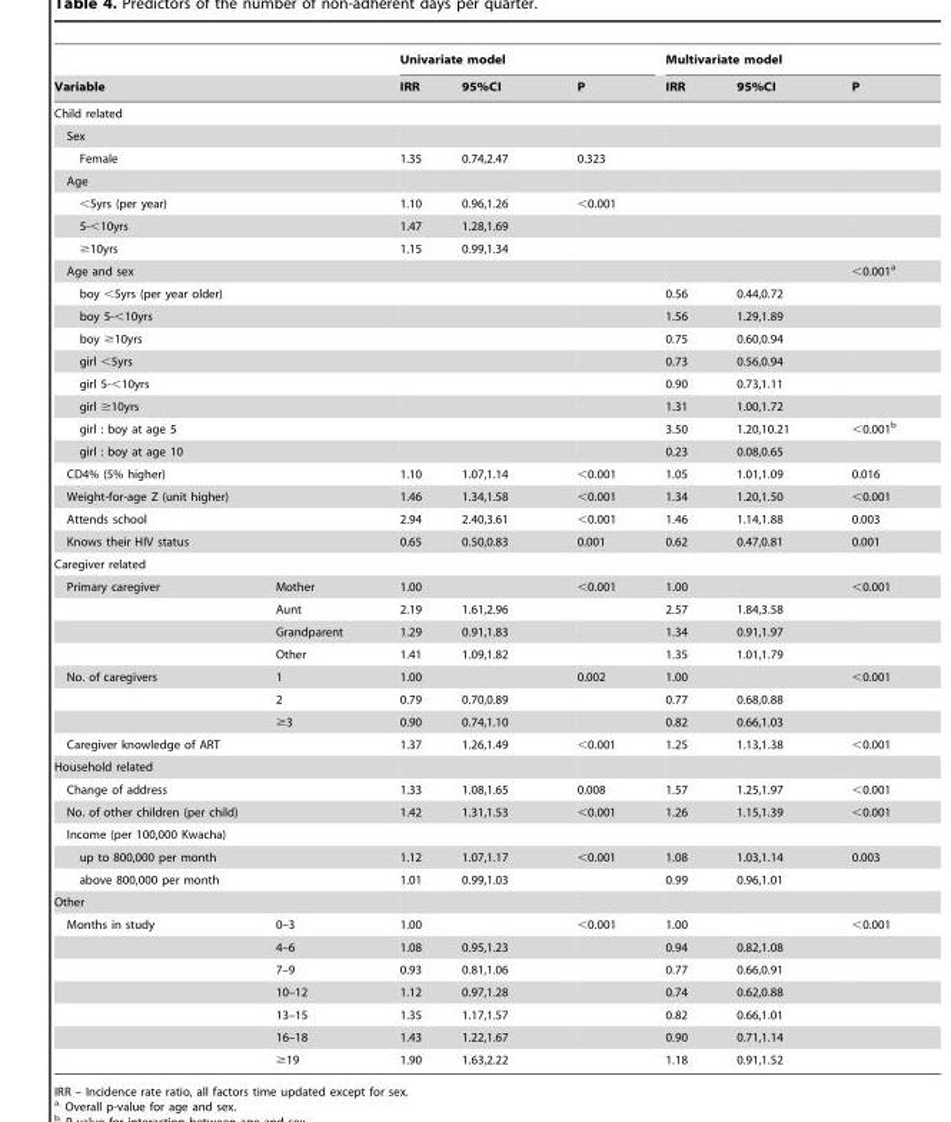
<table><thead><tr><td></td><td></td><td colspan="3">Univariate model</td><td colspan="3">Multivariate model</td></tr><tr><td colspan="2">Variable</td><td>IRR</td><td>95%CI</td><td>P</td><td>IRR</td><td>95%CI</td><td>P</td></tr></thead><tbody><tr><td colspan="8">Child related</td></tr><tr><td colspan="8">Sex</td></tr><tr><td colspan="2">Female</td><td>1.35</td><td>0.74,2.47</td><td>0.323</td><td></td><td></td><td></td></tr><tr><td colspan="8">Age</td></tr><tr><td colspan="2">&lt;5yrs (per year)</td><td>1.10</td><td>0.96,1.26</td><td>&lt;0.001</td><td></td><td></td><td></td></tr><tr><td colspan="2">5-&lt;10yrs</td><td>1.47</td><td>1.28,1.69</td><td></td><td></td><td></td><td></td></tr><tr><td colspan="2">≥10yrs</td><td>1.15</td><td>0.99,1.34</td><td></td><td></td><td></td><td></td></tr><tr><td colspan="2">Age and sex</td><td></td><td></td><td></td><td></td><td></td><td>&lt;0.001<sup>a</sup></td></tr><tr><td colspan="2">boy &lt;5yrs (per year older)</td><td></td><td></td><td></td><td>0.56</td><td>0.44,0.72</td><td></td></tr><tr><td colspan="2">boy 5-&lt;10yrs</td><td></td><td></td><td></td><td>1.56</td><td>1.29,1.89</td><td></td></tr><tr><td colspan="2">boy ≥10yrs</td><td></td><td></td><td></td><td>0.75</td><td>0.60,0.94</td><td></td></tr><tr><td colspan="2">girl &lt;5yrs</td><td></td><td></td><td></td><td>0.73</td><td>0.56,0.94</td><td></td></tr><tr><td colspan="2">girl 5-&lt;10yrs</td><td></td><td></td><td></td><td>0.90</td><td>0.73,1.11</td><td></td></tr><tr><td colspan="2">girl ≥10yrs</td><td></td><td></td><td></td><td>1.31</td><td>1.00,1.72</td><td></td></tr><tr><td colspan="2">girl : boy at age 5</td><td></td><td></td><td></td><td>3.50</td><td>1.20,10.21</td><td>&lt;0.001<sup>b</sup></td></tr><tr><td colspan="2">girl : boy at age 10</td><td></td><td></td><td></td><td>0.23</td><td>0.08,0.65</td><td></td></tr><tr><td colspan="2">CD4% (5% higher)</td><td>1.10</td><td>1.07,1.14</td><td>&lt;0.001</td><td>1.05</td><td>1.01,1.09</td><td>0.016</td></tr><tr><td colspan="2">Weight-for-age Z (unit higher)</td><td>1.46</td><td>1.34,1.58</td><td>&lt;0.001</td><td>1.34</td><td>1.20,1.50</td><td>&lt;0.001</td></tr><tr><td colspan="2">Attends school</td><td>2.94</td><td>2.40,3.61</td><td>&lt;0.001</td><td>1.46</td><td>1.14,1.88</td><td>0.003</td></tr><tr><td colspan="2">Knows their HIV status</td><td>0.65</td><td>0.50,0.83</td><td>0.001</td><td>0.62</td><td>0.47,0.81</td><td>0.001</td></tr><tr><td colspan="8">Caregiver related</td></tr><tr><td rowspan="4">Primary caregiver</td><td>Mother</td><td>1.00</td><td></td><td>&lt;0.001</td><td>1.00</td><td></td><td>&lt;0.001</td></tr><tr><td>Aunt</td><td>2.19</td><td>1.61,2.96</td><td></td><td>2.57</td><td>1.84,3.58</td><td></td></tr><tr><td>Grandparent</td><td>1.29</td><td>0.91,1.83</td><td></td><td>1.34</td><td>0.91,1.97</td><td></td></tr><tr><td>Other</td><td>1.41</td><td>1.09,1.82</td><td></td><td>1.35</td><td>1.01,1.79</td><td></td></tr><tr><td rowspan="3">No. of caregivers</td><td>1</td><td>1.00</td><td></td><td>0.002</td><td>1.00</td><td></td><td>&lt;0.001</td></tr><tr><td>2</td><td>0.79</td><td>0.70,0.89</td><td></td><td>0.77</td><td>0.68,0.88</td><td></td></tr><tr><td>≥3</td><td>0.90</td><td>0.74,1.10</td><td></td><td>0.82</td><td>0.66,1.03</td><td></td></tr><tr><td colspan="2">Caregiver knowledge of ART</td><td>1.37</td><td>1.26,1.49</td><td>&lt;0.001</td><td>1.25</td><td>1.13,1.38</td><td>&lt;0.001</td></tr><tr><td colspan="8">Household related</td></tr><tr><td colspan="2">Change of address</td><td>1.33</td><td>1.08,1.65</td><td>0.008</td><td>1.57</td><td>1.25,1.97</td><td>&lt;0.001</td></tr><tr><td colspan="2">No. of other children (per child)</td><td>1.42</td><td>1.31,1.53</td><td>&lt;0.001</td><td>1.26</td><td>1.15,1.39</td><td>&lt;0.001</td></tr><tr><td colspan="8">Income (per 100,000 Kwacha)</td></tr><tr><td colspan="2">up to 800,000 per month</td><td>1.12</td><td>1.07,1.17</td><td>&lt;0.001</td><td>1.08</td><td>1.03,1.14</td><td>0.003</td></tr><tr><td colspan="2">above 800,000 per month</td><td>1.01</td><td>0.99,1.03</td><td></td><td>0.99</td><td>0.96,1.01</td><td></td></tr><tr><td colspan="8">Other</td></tr><tr><td rowspan="7">Months in study</td><td>0–3</td><td>1.00</td><td></td><td>&lt;0.001</td><td>1.00</td><td></td><td>&lt;0.001</td></tr><tr><td>4–6</td><td>1.08</td><td>0.95,1.23</td><td></td><td>0.94</td><td>0.82,1.08</td><td></td></tr><tr><td>7–9</td><td>0.93</td><td>0.81,1.06</td><td></td><td>0.77</td><td>0.66,0.91</td><td></td></tr><tr><td>10–12</td><td>1.12</td><td>0.97,1.28</td><td></td><td>0.74</td><td>0.62,0.88</td><td></td></tr><tr><td>13–15</td><td>1.35</td><td>1.17,1.57</td><td></td><td>0.82</td><td>0.66,1.01</td><td></td></tr><tr><td>16–18</td><td>1.43</td><td>1.22,1.67</td><td></td><td>0.90</td><td>0.71,1.14</td><td></td></tr><tr><td>≥19</td><td>1.90</td><td>1.63,2.22</td><td></td><td>1.18</td><td>0.91,1.52</td><td></td></tr></tbody></table>